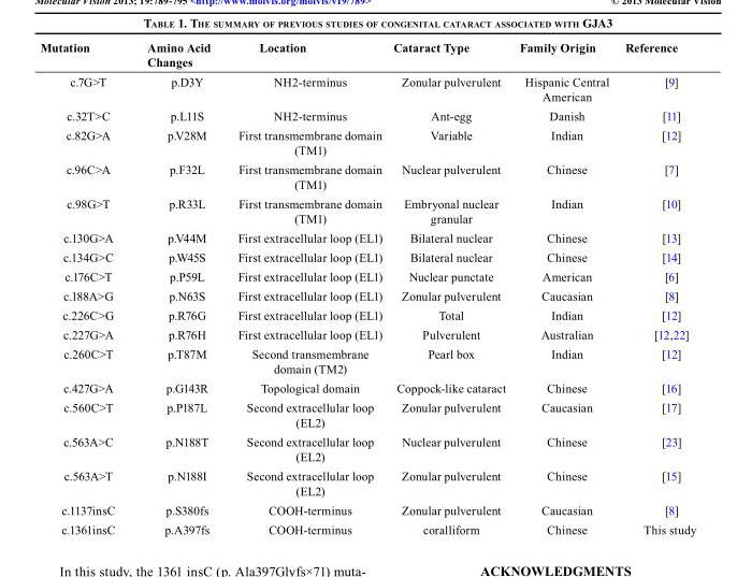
<table><thead><tr><td>Mutation</td><td>Amino Acid Changes</td><td>Location</td><td>Cataract Type</td><td>Family Origin</td><td>Reference</td></tr></thead><tbody><tr><td>c.7G&gt;T</td><td>p.D3Y</td><td>NH2-terminus</td><td>Zonular pulverulent</td><td>Hispanic Central American</td><td>[9]</td></tr><tr><td>c.32T&gt;C</td><td>p.L11S</td><td>NH2-terminus</td><td>Ant-egg</td><td>Danish</td><td>[11]</td></tr><tr><td>c.82G&gt;A</td><td>p.V28M</td><td>First transmembrane domain (TM1)</td><td>Variable</td><td>Indian</td><td>[12]</td></tr><tr><td>c.96C&gt;A</td><td>p.F32L</td><td>First transmembrane domain (TM1)</td><td>Nuclear pulverulent</td><td>Chinese</td><td>[7]</td></tr><tr><td>c.98G&gt;T</td><td>p.R33L</td><td>First transmembrane domain (TM1)</td><td>Embryonal nuclear granular</td><td>Indian</td><td>[10]</td></tr><tr><td>c.130G&gt;A</td><td>p.V44M</td><td>First extracellular loop (EL1)</td><td>Bilateral nuclear</td><td>Chinese</td><td>[13]</td></tr><tr><td>c.134G&gt;C</td><td>p.W45S</td><td>First extracellular loop (EL1)</td><td>Bilateral nuclear</td><td>Chinese</td><td>[14]</td></tr><tr><td>c.176C&gt;T</td><td>p.P59L</td><td>First extracellular loop (EL1)</td><td>Nuclear punctate</td><td>American</td><td>[6]</td></tr><tr><td>c.188A&gt;G</td><td>p.N63S</td><td>First extracellular loop (EL1)</td><td>Zonular pulverulent</td><td>Caucasian</td><td>[8]</td></tr><tr><td>c.226C&gt;G</td><td>p.R76G</td><td>First extracellular loop (EL1)</td><td>Total</td><td>Indian</td><td>[12]</td></tr><tr><td>c.227G&gt;A</td><td>p.R76H</td><td>First extracellular loop (EL1)</td><td>Pulverulent</td><td>Australian</td><td>[12,22]</td></tr><tr><td>c.260C&gt;T</td><td>p.T87M</td><td>Second transmembrane domain (TM2)</td><td>Pearl box</td><td>Indian</td><td>[12]</td></tr><tr><td>c.427G&gt;A</td><td>p.G143R</td><td>Topological domain</td><td>Coppock-like cataract</td><td>Chinese</td><td>[16]</td></tr><tr><td>c.560C&gt;T</td><td>p.P187L</td><td>Second extracellular loop (EL2)</td><td>Zonular pulverulent</td><td>Caucasian</td><td>[17]</td></tr><tr><td>c.563A&gt;C</td><td>p.N188T</td><td>Second extracellular loop (EL2)</td><td>Nuclear pulverulent</td><td>Chinese</td><td>[23]</td></tr><tr><td>c.563A&gt;T</td><td>p.N188I</td><td>Second extracellular loop (EL2)</td><td>Zonular pulverulent</td><td>Chinese</td><td>[15]</td></tr><tr><td>c.1137insC</td><td>p.S380fs</td><td>COOH-terminus</td><td>Zonular pulverulent</td><td>Caucasian</td><td>[8]</td></tr><tr><td>c.1361insC</td><td>p.A397fs</td><td>COOH-terminus</td><td>coralliform</td><td>Chinese</td><td>This study</td></tr></tbody></table>